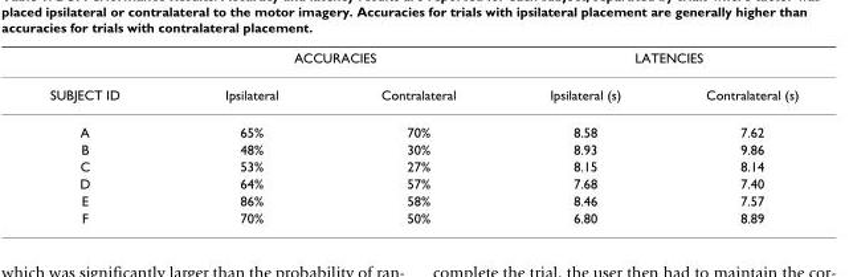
<table><thead><tr><td rowspan="2">SUBJECT ID</td><td colspan="2">ACCURACIES</td><td colspan="2">LATENCIES</td></tr><tr><td>Ipsilateral</td><td>Contralateral</td><td>Ipsilateral (s)</td><td>Contralateral (s)</td></tr></thead><tbody><tr><td>A</td><td>65%</td><td>70%</td><td>8.58</td><td>7.62</td></tr><tr><td>B</td><td>48%</td><td>30%</td><td>8.93</td><td>9.86</td></tr><tr><td>C</td><td>53%</td><td>27%</td><td>8.15</td><td>8.14</td></tr><tr><td>D</td><td>64%</td><td>57%</td><td>7.68</td><td>7.40</td></tr><tr><td>E</td><td>86%</td><td>58%</td><td>8.46</td><td>7.57</td></tr><tr><td>F</td><td>70%</td><td>50%</td><td>6.80</td><td>8.89</td></tr></tbody></table>